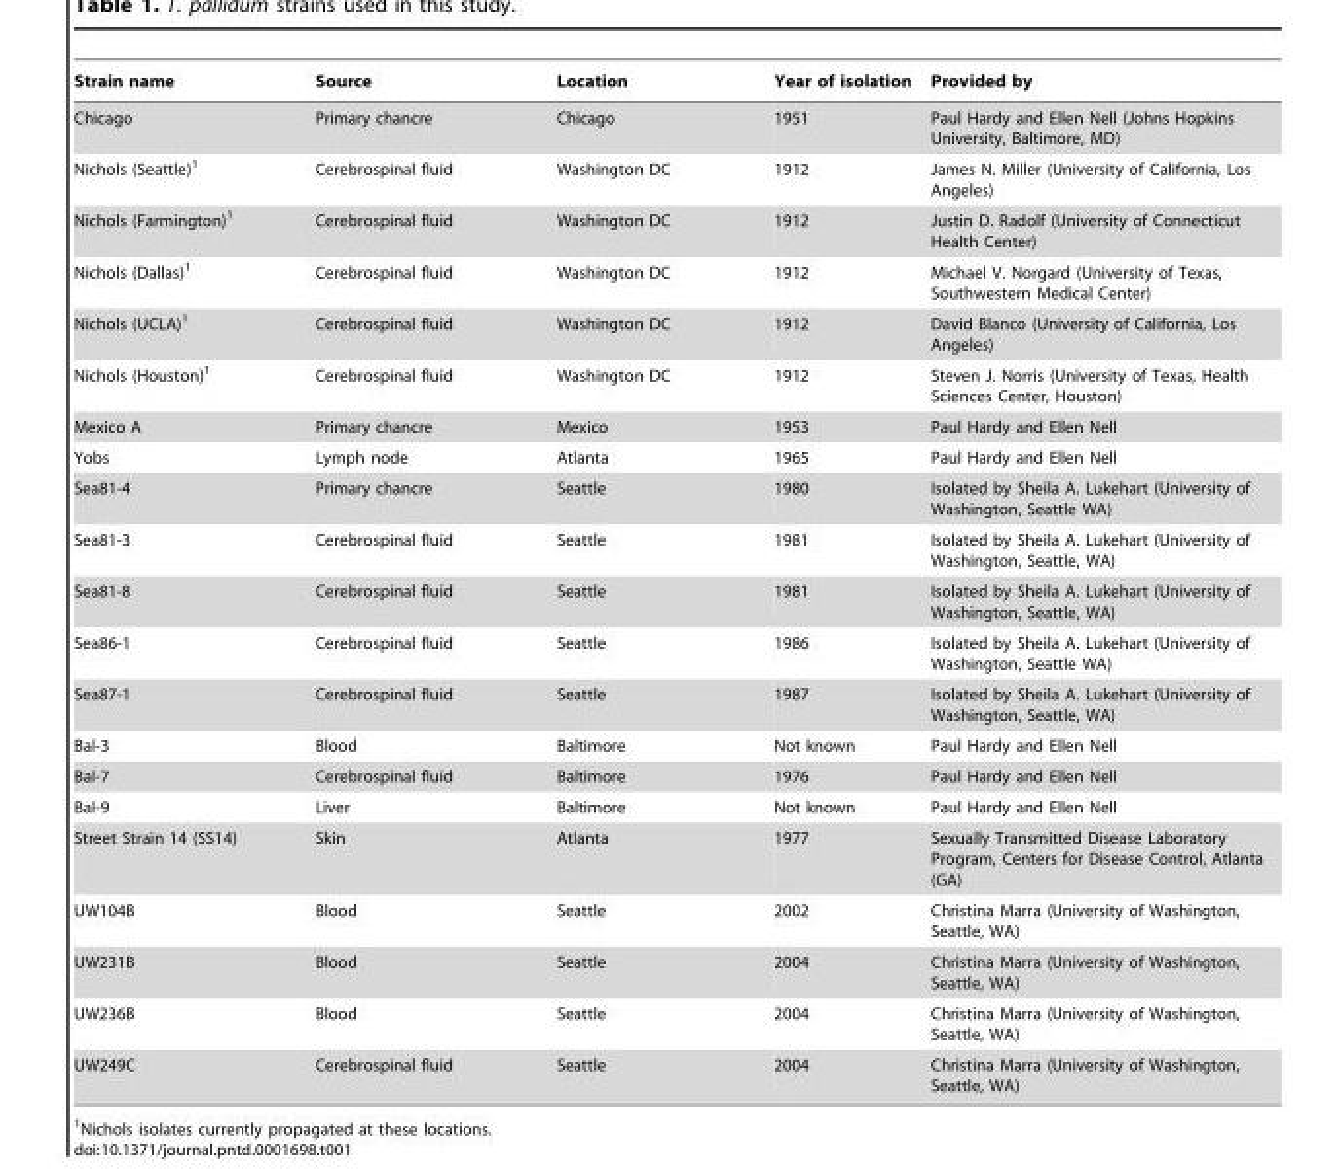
<table><thead><tr><td>Strain name</td><td>Source</td><td>Location</td><td>Year of isolation</td><td>Provided by</td></tr></thead><tbody><tr><td>Chicago</td><td>Primary chancre</td><td>Chicago</td><td>1951</td><td>Paul Hardy and Ellen Nell (Johns Hopkins University, Baltimore, MD)</td></tr><tr><td>Nichols (Seattle)<sup>1</sup></td><td>Cerebrospinal fluid</td><td>Washington DC</td><td>1912</td><td>James N. Miller (University of California, Los Angeles)</td></tr><tr><td>Nichols (Farmington)<sup>1</sup></td><td>Cerebrospinal fluid</td><td>Washington DC</td><td>1912</td><td>Justin D. Radolf (University of Connecticut Health Center)</td></tr><tr><td>Nichols (Dallas)<sup>1</sup></td><td>Cerebrospinal fluid</td><td>Washington DC</td><td>1912</td><td>Michael V. Norgard (University of Texas, Southwestern Medical Center)</td></tr><tr><td>Nichols (UCLA)<sup>1</sup></td><td>Cerebrospinal fluid</td><td>Washington DC</td><td>1912</td><td>David Blanco (University of California, Los Angeles)</td></tr><tr><td>Nichols (Houston)<sup>1</sup></td><td>Cerebrospinal fluid</td><td>Washington DC</td><td>1912</td><td>Steven J. Norris (University of Texas, Health Sciences Center, Houston)</td></tr><tr><td>Mexico A</td><td>Primary chancre</td><td>Mexico</td><td>1953</td><td>Paul Hardy and Ellen Nell</td></tr><tr><td>Yobs</td><td>Lymph node</td><td>Atlanta</td><td>1965</td><td>Paul Hardy and Ellen Nell</td></tr><tr><td>Sea81-4</td><td>Primary chancre</td><td>Seattle</td><td>1980</td><td>Isolated by Sheila A. Lukehart (University of Washington, Seattle WA)</td></tr><tr><td>Sea81-3</td><td>Cerebrospinal fluid</td><td>Seattle</td><td>1981</td><td>Isolated by Sheila A. Lukehart (University of Washington, Seattle, WA)</td></tr><tr><td>Sea81-8</td><td>Cerebrospinal fluid</td><td>Seattle</td><td>1981</td><td>Isolated by Sheila A. Lukehart (University of Washington, Seattle, WA)</td></tr><tr><td>Sea86-1</td><td>Cerebrospinal fluid</td><td>Seattle</td><td>1986</td><td>Isolated by Sheila A. Lukehart (University of Washington, Seattle WA)</td></tr><tr><td>Sea87-1</td><td>Cerebrospinal fluid</td><td>Seattle</td><td>1987</td><td>Isolated by Sheila A. Lukehart (University of Washington, Seattle, WA)</td></tr><tr><td>Bal-3</td><td>Blood</td><td>Baltimore</td><td>Not known</td><td>Paul Hardy and Ellen Nell</td></tr><tr><td>Bal-7</td><td>Cerebrospinal fluid</td><td>Baltimore</td><td>1976</td><td>Paul Hardy and Ellen Nell</td></tr><tr><td>Bal-9</td><td>Liver</td><td>Baltimore</td><td>Not known</td><td>Paul Hardy and Ellen Nell</td></tr><tr><td>Street Strain 14 (SS14)</td><td>Skin</td><td>Atlanta</td><td>1977</td><td>Sexually Transmitted Disease Laboratory Program, Centers for Disease Control, Atlanta (GA)</td></tr><tr><td>UW104B</td><td>Blood</td><td>Seattle</td><td>2002</td><td>Christina Marra (University of Washington, Seattle, WA)</td></tr><tr><td>UW231B</td><td>Blood</td><td>Seattle</td><td>2004</td><td>Christina Marra (University of Washington, Seattle, WA)</td></tr><tr><td>UW236B</td><td>Blood</td><td>Seattle</td><td>2004</td><td>Christina Marra (University of Washington, Seattle, WA)</td></tr><tr><td>UW249C</td><td>Cerebrospinal fluid</td><td>Seattle</td><td>2004</td><td>Christina Marra (University of Washington, Seattle, WA)</td></tr></tbody></table>